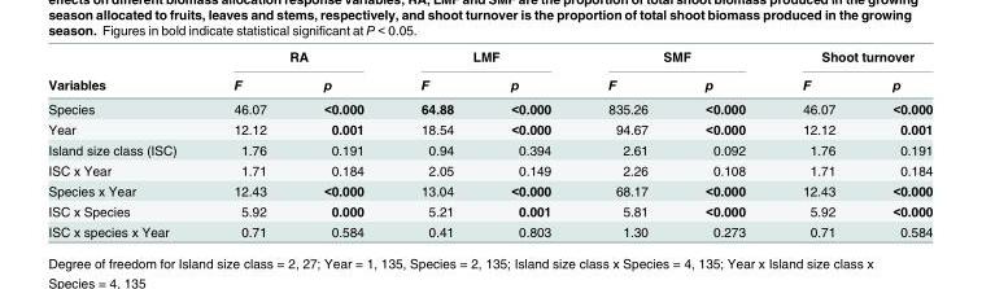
<table><thead><tr><td rowspan="2">Variables</td><td colspan="2">RA</td><td colspan="2">LMF</td><td colspan="2">SMF</td><td colspan="2">Shoot turnover</td></tr><tr><td>F</td><td>p</td><td>F</td><td>p</td><td>F</td><td>p</td><td>F</td><td>p</td></tr></thead><tbody><tr><td>Species</td><td>46.07</td><td>&lt;0.000</td><td>64.88</td><td>&lt;0.000</td><td>835.26</td><td>&lt;0.000</td><td>46.07</td><td>&lt;0.000</td></tr><tr><td>Year</td><td>12.12</td><td>0.001</td><td>18.54</td><td>&lt;0.000</td><td>94.67</td><td>&lt;0.000</td><td>12.12</td><td>0.001</td></tr><tr><td>Island size class (ISC)</td><td>1.76</td><td>0.191</td><td>0.94</td><td>0.394</td><td>2.61</td><td>0.092</td><td>1.76</td><td>0.191</td></tr><tr><td>ISC x Year</td><td>1.71</td><td>0.184</td><td>2.05</td><td>0.149</td><td>2.26</td><td>0.108</td><td>1.71</td><td>0.184</td></tr><tr><td>Species x Year</td><td>12.43</td><td>&lt;0.000</td><td>13.04</td><td>&lt;0.000</td><td>68.17</td><td>&lt;0.000</td><td>12.43</td><td>&lt;0.000</td></tr><tr><td>ISC x Species</td><td>5.92</td><td>0.000</td><td>5.21</td><td>0.001</td><td>5.81</td><td>&lt;0.000</td><td>5.92</td><td>&lt;0.000</td></tr><tr><td>ISC x species x Year</td><td>0.71</td><td>0.584</td><td>0.41</td><td>0.803</td><td>1.30</td><td>0.273</td><td>0.71</td><td>0.584</td></tr></tbody></table>